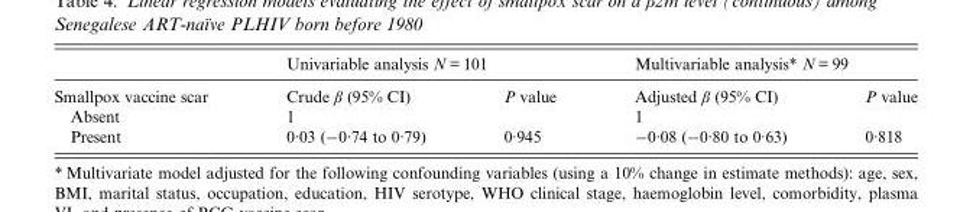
<table><thead><tr><td rowspan="2">Smallpox vaccine scar</td><td colspan="2">Univariable analysis N = 101</td><td colspan="2">Multivariable analysis* N = 99</td></tr><tr><td>Crude β (95% CI)</td><td>P value</td><td>Adjusted β (95% CI)</td><td>P value</td></tr></thead><tbody><tr><td>Absent</td><td>1</td><td></td><td>1</td><td></td></tr><tr><td>Present</td><td>0·03 (−0·74 to 0·79)</td><td>0·945</td><td>−0·08 (−0·80 to 0·63)</td><td>0·818</td></tr></tbody></table>